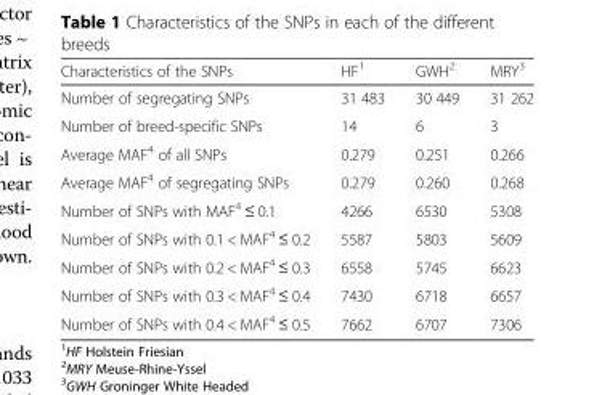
<table><thead><tr><td>Characteristics of the SNPs</td><td>HF<sup>1</sup></td><td>GWH<sup>2</sup></td><td>MRY<sup>3</sup></td></tr></thead><tbody><tr><td>Number of segregating SNPs</td><td>31 483</td><td>30 449</td><td>31 262</td></tr><tr><td>Number of breed-specific SNPs</td><td>14</td><td>6</td><td>3</td></tr><tr><td>Average MAF<sup>4</sup> of all SNPs</td><td>0.279</td><td>0.251</td><td>0.266</td></tr><tr><td>Average MAF<sup>4</sup> of segregating SNPs</td><td>0.279</td><td>0.260</td><td>0.268</td></tr><tr><td>Number of SNPs with MAF<sup>4</sup> ≤ 0.1</td><td>4266</td><td>6530</td><td>5308</td></tr><tr><td>Number of SNPs with 0.1 &lt; MAF<sup>4</sup> ≤ 0.2</td><td>5587</td><td>5803</td><td>5609</td></tr><tr><td>Number of SNPs with 0.2 &lt; MAF<sup>4</sup> ≤ 0.3</td><td>6558</td><td>5745</td><td>6623</td></tr><tr><td>Number of SNPs with 0.3 &lt; MAF<sup>4</sup> ≤ 0.4</td><td>7430</td><td>6718</td><td>6657</td></tr><tr><td>Number of SNPs with 0.4 &lt; MAF<sup>4</sup> ≤ 0.5</td><td>7662</td><td>6707</td><td>7306</td></tr></tbody></table>